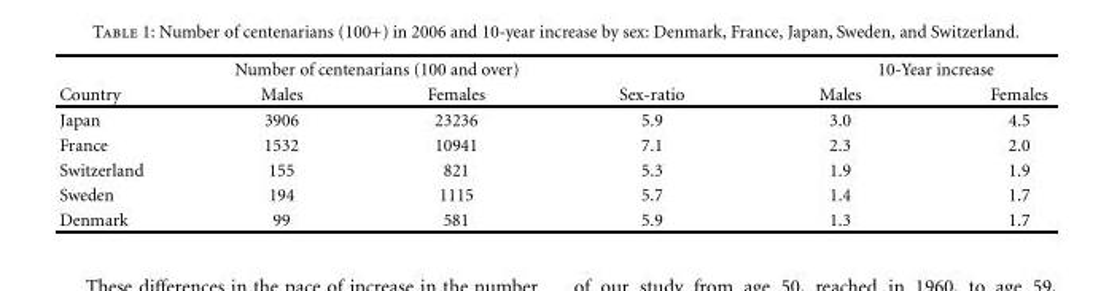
<table><thead><tr><td colspan="4">Number of centenarians (100 and over)</td><td colspan="2">10-Year increase</td></tr><tr><td>Country</td><td>Males</td><td>Females</td><td>Sex-ratio</td><td>Males</td><td>Females</td></tr></thead><tbody><tr><td>Japan</td><td>3906</td><td>23236</td><td>5.9</td><td>3.0</td><td>4.5</td></tr><tr><td>France</td><td>1532</td><td>10941</td><td>7.1</td><td>2.3</td><td>2.0</td></tr><tr><td>Switzerland</td><td>155</td><td>821</td><td>5.3</td><td>1.9</td><td>1.9</td></tr><tr><td>Sweden</td><td>194</td><td>1115</td><td>5.7</td><td>1.4</td><td>1.7</td></tr><tr><td>Denmark</td><td>99</td><td>581</td><td>5.9</td><td>1.3</td><td>1.7</td></tr></tbody></table>